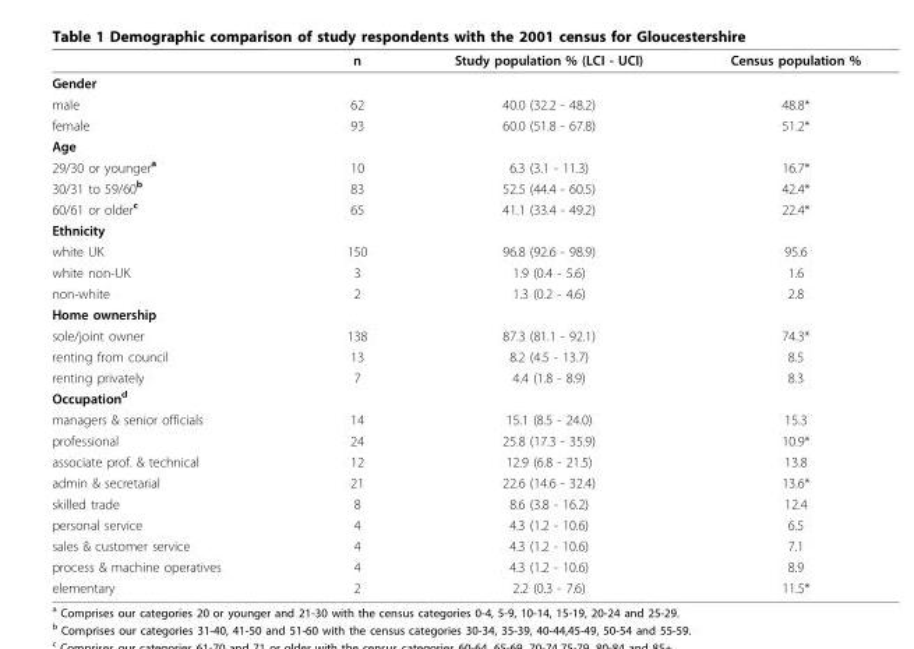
<table><thead><tr><td></td><td>n</td><td>Study population % (LCI - UCI)</td><td>Census population %</td></tr></thead><tbody><tr><td colspan="4">Gender</td></tr><tr><td>male</td><td>62</td><td>40.0 (32.2 - 48.2)</td><td>48.8*</td></tr><tr><td>female</td><td>93</td><td>60.0 (51.8 - 67.8)</td><td>51.2*</td></tr><tr><td colspan="4">Age</td></tr><tr><td>29/30 or younger<sup>a</sup></td><td>10</td><td>6.3 (3.1 - 11.3)</td><td>16.7*</td></tr><tr><td>30/31 to 59/60<sup>b</sup></td><td>83</td><td>52.5 (44.4 - 60.5)</td><td>42.4*</td></tr><tr><td>60/61 or older<sup>c</sup></td><td>65</td><td>41.1 (33.4 - 49.2)</td><td>22.4*</td></tr><tr><td colspan="4">Ethnicity</td></tr><tr><td>white UK</td><td>150</td><td>96.8 (92.6 - 98.9)</td><td>95.6</td></tr><tr><td>white non-UK</td><td>3</td><td>1.9 (0.4 - 5.6)</td><td>1.6</td></tr><tr><td>non-white</td><td>2</td><td>1.3 (0.2 - 4.6)</td><td>2.8</td></tr><tr><td colspan="4">Home ownership</td></tr><tr><td>sole/joint owner</td><td>138</td><td>87.3 (81.1 - 92.1)</td><td>74.3*</td></tr><tr><td>renting from council</td><td>13</td><td>8.2 (4.5 - 13.7)</td><td>8.5</td></tr><tr><td>renting privately</td><td>7</td><td>4.4 (1.8 - 8.9)</td><td>8.3</td></tr><tr><td colspan="4">Occupation<sup>d</sup></td></tr><tr><td>managers &amp; senior officials</td><td>14</td><td>15.1 (8.5 - 24.0)</td><td>15.3</td></tr><tr><td>professional</td><td>24</td><td>25.8 (17.3 - 35.9)</td><td>10.9*</td></tr><tr><td>associate prof. &amp; technical</td><td>12</td><td>12.9 (6.8 - 21.5)</td><td>13.8</td></tr><tr><td>admin &amp; secretarial</td><td>21</td><td>22.6 (14.6 - 32.4)</td><td>13.6*</td></tr><tr><td>skilled trade</td><td>8</td><td>8.6 (3.8 - 16.2)</td><td>12.4</td></tr><tr><td>personal service</td><td>4</td><td>4.3 (1.2 - 10.6)</td><td>6.5</td></tr><tr><td>sales &amp; customer service</td><td>4</td><td>4.3 (1.2 - 10.6)</td><td>7.1</td></tr><tr><td>process &amp; machine operatives</td><td>4</td><td>4.3 (1.2 - 10.6)</td><td>8.9</td></tr><tr><td>elementary</td><td>2</td><td>2.2 (0.3 - 7.6)</td><td>11.5*</td></tr></tbody></table>